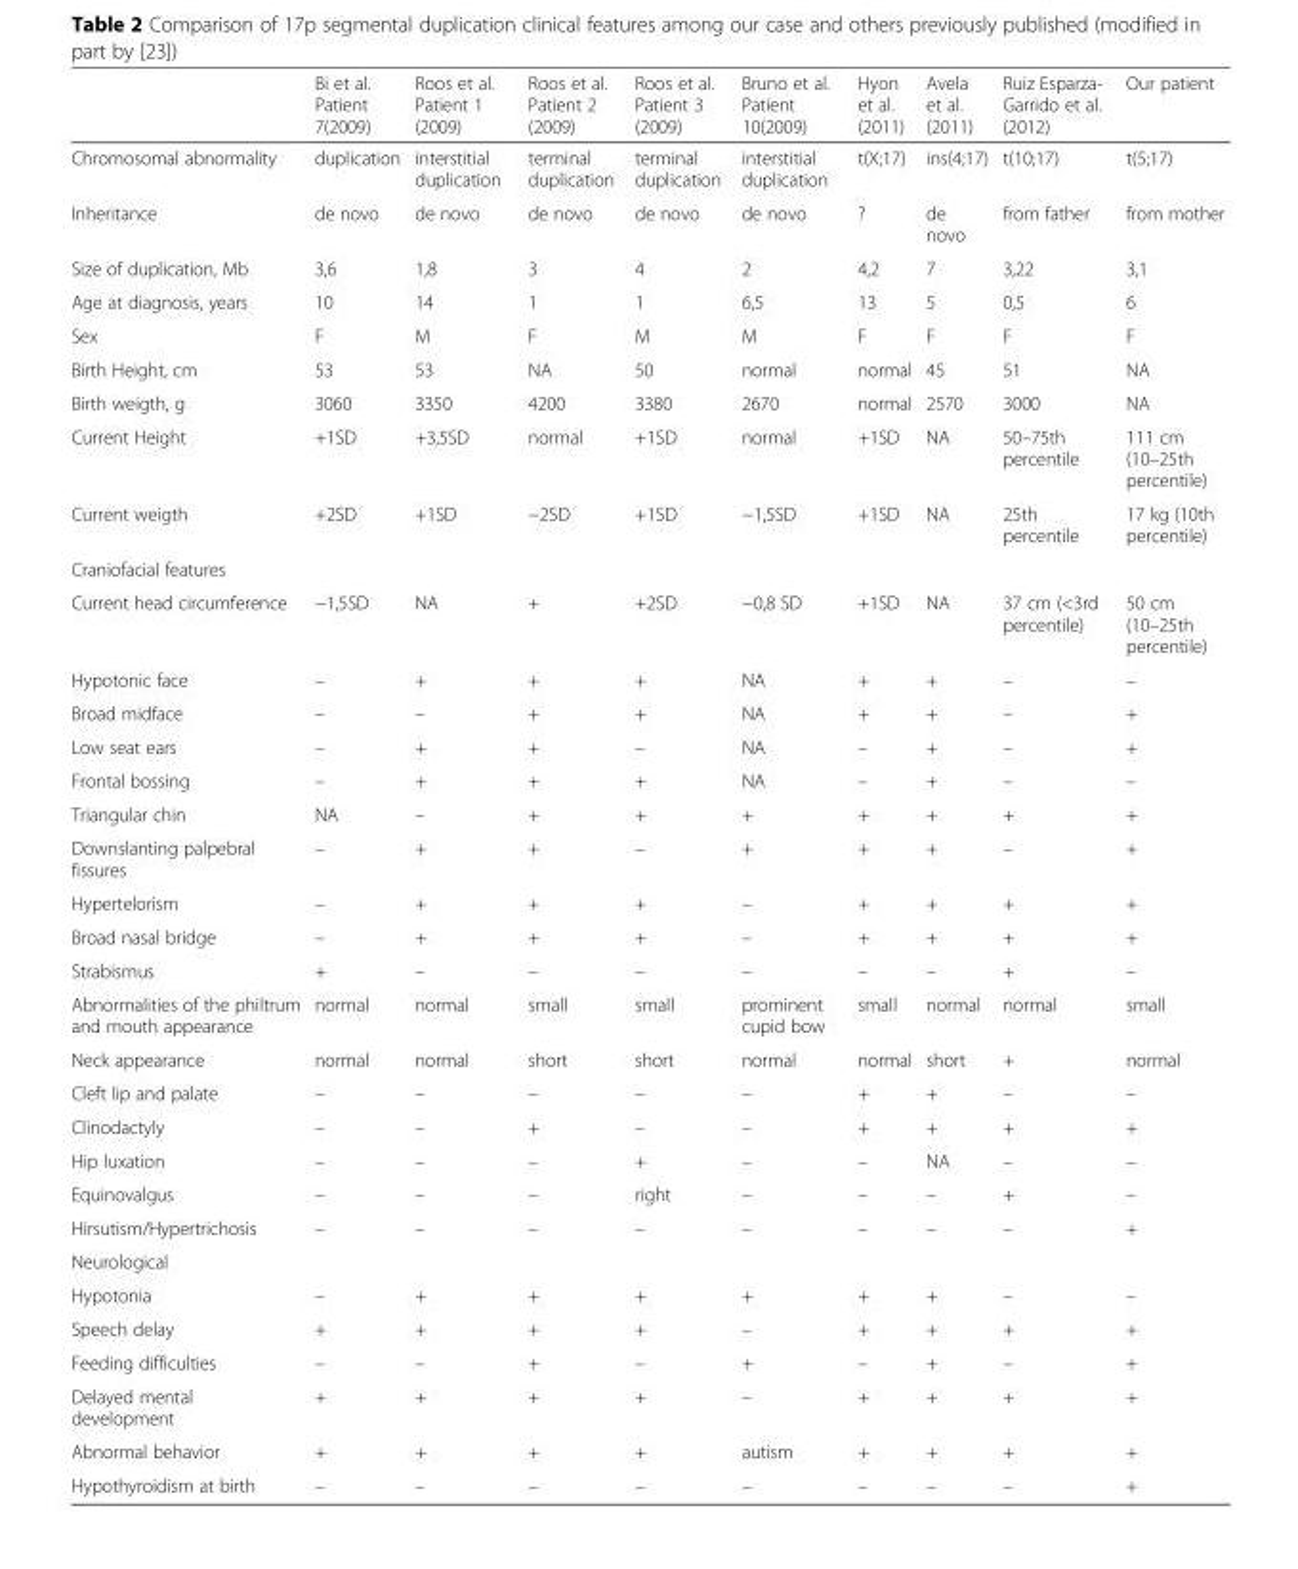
<table><thead><tr><td></td><td>Bi et al. Patient 7(2009)</td><td>Roos et al. Patient 1 (2009)</td><td>Roos et al. Patient 2 (2009)</td><td>Roos et al. Patient 3 (2009)</td><td>Bruno et al. Patient 10(2009)</td><td>Hyon et al. (2011)</td><td>Avela et al. (2011)</td><td>Ruiz Esparza- Garrido et al. (2012)</td><td>Our patient</td></tr></thead><tbody><tr><td>Chromosomal abnormality</td><td>duplication</td><td>interstitial duplication</td><td>terminal duplication</td><td>terminal duplication</td><td>interstitial duplication</td><td>t(X;17)</td><td>ins(4;17)</td><td>t(10;17)</td><td>t(5;17)</td></tr><tr><td>Inheritance</td><td>de novo</td><td>de novo</td><td>de novo</td><td>de novo</td><td>de novo</td><td>?</td><td>de novo</td><td>from father</td><td>from mother</td></tr><tr><td>Size of duplication, Mb</td><td>3,6</td><td>1,8</td><td>3</td><td>4</td><td>2</td><td>4,2</td><td>7</td><td>3,22</td><td>3,1</td></tr><tr><td>Age at diagnosis, years</td><td>10</td><td>14</td><td>1</td><td>1</td><td>6,5</td><td>13</td><td>5</td><td>0,5</td><td>6</td></tr><tr><td>Sex</td><td>F</td><td>M</td><td>F</td><td>M</td><td>M</td><td>F</td><td>F</td><td>F</td><td>F</td></tr><tr><td>Birth Height, cm</td><td>53</td><td>53</td><td>NA</td><td>50</td><td>normal</td><td>normal</td><td>45</td><td>51</td><td>NA</td></tr><tr><td>Birth weigth, g</td><td>3060</td><td>3350</td><td>4200</td><td>3380</td><td>2670</td><td>normal</td><td>2570</td><td>3000</td><td>NA</td></tr><tr><td>Current Height</td><td>+1SD</td><td>+3,5SD</td><td>normal</td><td>+1SD</td><td>normal</td><td>+1SD</td><td>NA</td><td>50–75th percentile</td><td>111 cm (10–25th percentile)</td></tr><tr><td>Current weigth</td><td>+2SD</td><td>+1SD</td><td>−2SD</td><td>+1SD</td><td>−1,5SD</td><td>+1SD</td><td>NA</td><td>25th percentile</td><td>17 kg (10th percentile)</td></tr><tr><td colspan="10">Craniofacial features</td></tr><tr><td>Current head circumference</td><td>−1,5SD</td><td>NA</td><td>+</td><td>+2SD</td><td>−0,8 SD</td><td>+1SD</td><td>NA</td><td>37 cm (&lt;3rd percentile)</td><td>50 cm (10–25th percentile)</td></tr><tr><td>Hypotonic face</td><td>–</td><td>+</td><td>+</td><td>+</td><td>NA</td><td>+</td><td>+</td><td>–</td><td>–</td></tr><tr><td>Broad midface</td><td>–</td><td>–</td><td>+</td><td>+</td><td>NA</td><td>+</td><td>+</td><td>–</td><td>+</td></tr><tr><td>Low seat ears</td><td>–</td><td>+</td><td>+</td><td>–</td><td>NA</td><td>–</td><td>+</td><td>–</td><td>+</td></tr><tr><td>Frontal bossing</td><td>–</td><td>+</td><td>+</td><td>+</td><td>NA</td><td>–</td><td>+</td><td>–</td><td>–</td></tr><tr><td>Triangular chin</td><td>NA</td><td>–</td><td>+</td><td>+</td><td>+</td><td>+</td><td>+</td><td>+</td><td>+</td></tr><tr><td>Downslanting palpebral fissures</td><td>–</td><td>+</td><td>+</td><td>–</td><td>+</td><td>+</td><td>+</td><td>–</td><td>+</td></tr><tr><td>Hypertelorism</td><td>–</td><td>+</td><td>+</td><td>+</td><td>–</td><td>+</td><td>+</td><td>+</td><td>+</td></tr><tr><td>Broad nasal bridge</td><td>–</td><td>+</td><td>+</td><td>+</td><td>–</td><td>+</td><td>+</td><td>+</td><td>+</td></tr><tr><td>Strabismus</td><td>+</td><td>–</td><td>–</td><td>–</td><td>–</td><td>–</td><td>–</td><td>+</td><td>–</td></tr><tr><td>Abnormalities of the philtrum and mouth appearance</td><td>normal</td><td>normal</td><td>small</td><td>small</td><td>prominent cupid bow</td><td>small</td><td>normal</td><td>normal</td><td>small</td></tr><tr><td>Neck appearance</td><td>normal</td><td>normal</td><td>short</td><td>short</td><td>normal</td><td>normal</td><td>short</td><td>+</td><td>normal</td></tr><tr><td>Cleft lip and palate</td><td>–</td><td>–</td><td>–</td><td>–</td><td>–</td><td>+</td><td>+</td><td>–</td><td>–</td></tr><tr><td>Clinodactyly</td><td>–</td><td>–</td><td>+</td><td>–</td><td>–</td><td>+</td><td>+</td><td>+</td><td>+</td></tr><tr><td>Hip luxation</td><td>–</td><td>–</td><td>–</td><td>+</td><td>–</td><td>–</td><td>NA</td><td>–</td><td>–</td></tr><tr><td>Equinovalgus</td><td>–</td><td>–</td><td>–</td><td>right</td><td>–</td><td>–</td><td>–</td><td>+</td><td>–</td></tr><tr><td>Hirsutism/Hypertrichosis</td><td>–</td><td>–</td><td>–</td><td>–</td><td>–</td><td>–</td><td>–</td><td>–</td><td>+</td></tr><tr><td colspan="10">Neurological</td></tr><tr><td>Hypotonia</td><td>–</td><td>+</td><td>+</td><td>+</td><td>+</td><td>+</td><td>+</td><td>–</td><td>–</td></tr><tr><td>Speech delay</td><td>+</td><td>+</td><td>+</td><td>+</td><td>–</td><td>+</td><td>+</td><td>+</td><td>+</td></tr><tr><td>Feeding difficulties</td><td>–</td><td>–</td><td>+</td><td>–</td><td>+</td><td>–</td><td>+</td><td>–</td><td>+</td></tr><tr><td>Delayed mental development</td><td>+</td><td>+</td><td>+</td><td>+</td><td>–</td><td>+</td><td>+</td><td>+</td><td>+</td></tr><tr><td>Abnormal behavior</td><td>+</td><td>+</td><td>+</td><td>+</td><td>autism</td><td>+</td><td>+</td><td>+</td><td>+</td></tr><tr><td>Hypothyroidism at birth</td><td>–</td><td>–</td><td>–</td><td>–</td><td>–</td><td>–</td><td>–</td><td>–</td><td>+</td></tr></tbody></table>